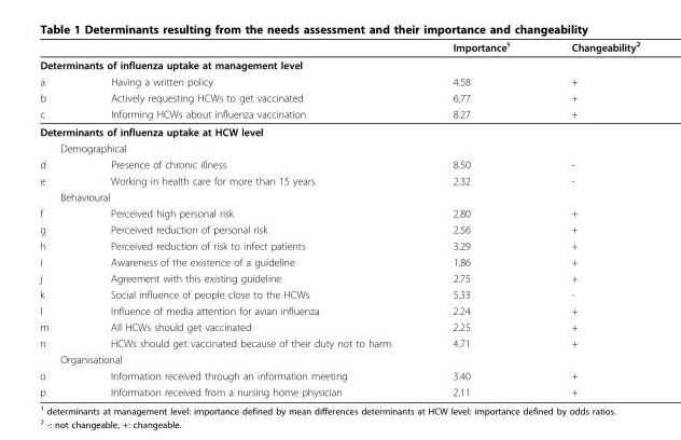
<table><thead><tr><td></td><td></td><td>Importance¹</td><td>Changeability<sup>2</sup></td></tr></thead><tbody><tr><td colspan="4">Determinants of influenza uptake at management level</td></tr><tr><td>a</td><td>Having a written policy</td><td>4.58</td><td>+</td></tr><tr><td>b</td><td>Actively requesting HCWs to get vaccinated</td><td>6.77</td><td>+</td></tr><tr><td>c</td><td>Informing HCWs about influenza vaccination</td><td>8.27</td><td>+</td></tr><tr><td colspan="4">Determinants of influenza uptake at HCW level</td></tr><tr><td colspan="4">Demographical</td></tr><tr><td>d</td><td>Presence of chronic illness</td><td>8.50</td><td>-</td></tr><tr><td>e</td><td>Working in health care for more than 15 years</td><td>2.32</td><td>-</td></tr><tr><td colspan="4">Behavioural</td></tr><tr><td>f</td><td>Perceived high personal risk</td><td>2.80</td><td>+</td></tr><tr><td>g</td><td>Perceived reduction of personal risk</td><td>2.56</td><td>+</td></tr><tr><td>h</td><td>Perceived reduction of risk to infect patients</td><td>3.29</td><td>+</td></tr><tr><td>i</td><td>Awareness of the existence of a guideline</td><td>1.86</td><td>+</td></tr><tr><td>j</td><td>Agreement with this existing guideline</td><td>2.75</td><td>+</td></tr><tr><td>k</td><td>Social influence of people close to the HCWs</td><td>5.33</td><td>-</td></tr><tr><td>l</td><td>Influence of media attention for avian influenza</td><td>2.24</td><td>+</td></tr><tr><td>m</td><td>All HCWs should get vaccinated</td><td>2.25</td><td>+</td></tr><tr><td>n</td><td>HCWs should get vaccinated because of their duty not to harm</td><td>4.71</td><td>+</td></tr><tr><td colspan="4">Organisational</td></tr><tr><td>o</td><td>Information received through an information meeting</td><td>3.40</td><td>+</td></tr><tr><td>p</td><td>Information received from a nursing home physician</td><td>2.11</td><td>+</td></tr></tbody></table>